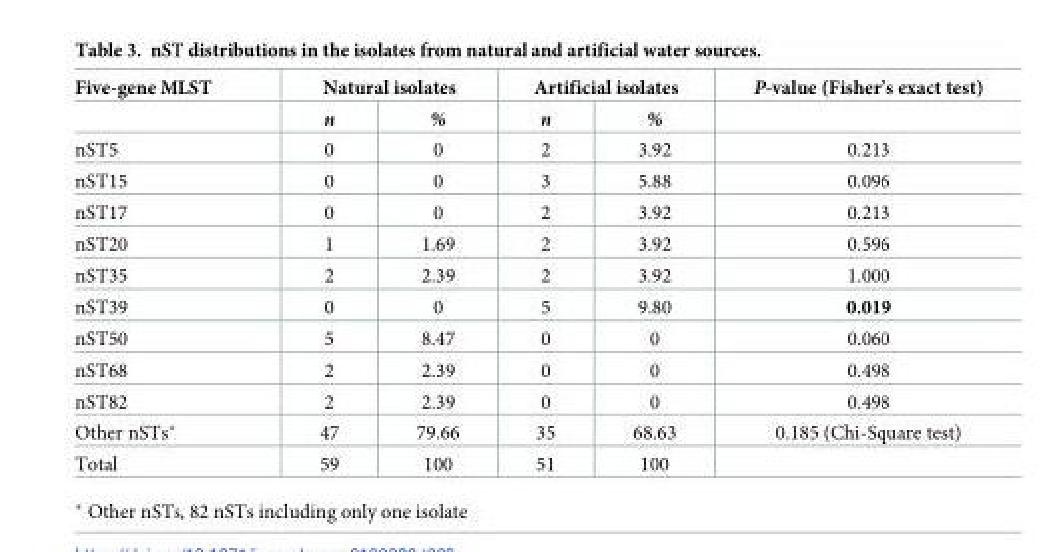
<table><thead><tr><td rowspan="2">Five-gene MLST</td><td colspan="2">Natural isolates</td><td colspan="2">Artificial isolates</td><td rowspan="2">P-value (Fisher’s exact test)</td></tr><tr><td>n</td><td>%</td><td>n</td><td>%</td></tr></thead><tbody><tr><td>nST5</td><td>0</td><td>0</td><td>2</td><td>3.92</td><td>0.213</td></tr><tr><td>nST15</td><td>0</td><td>0</td><td>3</td><td>5.88</td><td>0.096</td></tr><tr><td>nST17</td><td>0</td><td>0</td><td>2</td><td>3.92</td><td>0.213</td></tr><tr><td>nST20</td><td>1</td><td>1.69</td><td>2</td><td>3.92</td><td>0.596</td></tr><tr><td>nST35</td><td>2</td><td>2.39</td><td>2</td><td>3.92</td><td>1.000</td></tr><tr><td>nST39</td><td>0</td><td>0</td><td>5</td><td>9.80</td><td>0.019</td></tr><tr><td>nST50</td><td>5</td><td>8.47</td><td>0</td><td>0</td><td>0.060</td></tr><tr><td>nST68</td><td>2</td><td>2.39</td><td>0</td><td>0</td><td>0.498</td></tr><tr><td>nST82</td><td>2</td><td>2.39</td><td>0</td><td>0</td><td>0.498</td></tr><tr><td>Other nSTs*</td><td>47</td><td>79.66</td><td>35</td><td>68.63</td><td>0.185 (Chi-Square test)</td></tr><tr><td>Total</td><td>59</td><td>100</td><td>51</td><td>100</td><td></td></tr></tbody></table>